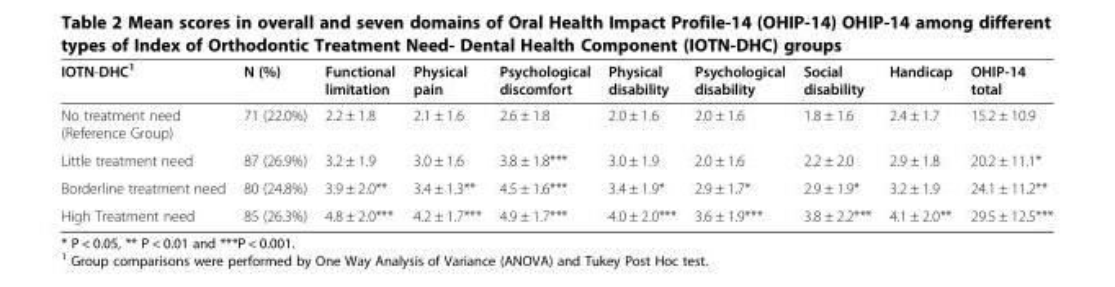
<table><thead><tr><td>IOTN-DHC<sup>1</sup></td><td>N (%)</td><td>Functional limitation</td><td>Physical pain</td><td>Psychological discomfort</td><td>Physical disability</td><td>Psychological disability</td><td>Social disability</td><td>Handicap</td><td>OHIP-14 total</td></tr></thead><tbody><tr><td>No treatment need (Reference Group)</td><td>71 (22.0%)</td><td>2.2 ± 1.8</td><td>2.1 ± 1.6</td><td>2.6 ± 1.8</td><td>2.0 ± 1.6</td><td>2.0 ± 1.6</td><td>1.8 ± 1.6</td><td>2.4 ± 1.7</td><td>15.2 ± 10.9</td></tr><tr><td>Little treatment need</td><td>87 (26.9%)</td><td>3.2 ± 1.9</td><td>3.0 ± 1.6</td><td>3.8 ± 1.8***</td><td>3.0 ± 1.9</td><td>2.0 ± 1.6</td><td>2.2 ± 2.0</td><td>2.9 ± 1.8</td><td>20.2 ± 11.1*</td></tr><tr><td>Borderline treatment need</td><td>80 (24.8%)</td><td>3.9 ± 2.0**</td><td>3.4 ± 1.3**</td><td>4.5 ± 1.6***</td><td>3.4 ± 1.9*</td><td>2.9 ± 1.7*</td><td>2.9 ± 1.9*</td><td>3.2 ± 1.9</td><td>24.1 ± 11.2**</td></tr><tr><td>High Treatment need</td><td>85 (26.3%)</td><td>4.8 ± 2.0***</td><td>4.2 ± 1.7***</td><td>4.9 ± 1.7***</td><td>4.0 ± 2.0***</td><td>3.6 ± 1.9***</td><td>3.8 ± 2.2***</td><td>4.1 ± 2.0**</td><td>29.5 ± 12.5***</td></tr></tbody></table>